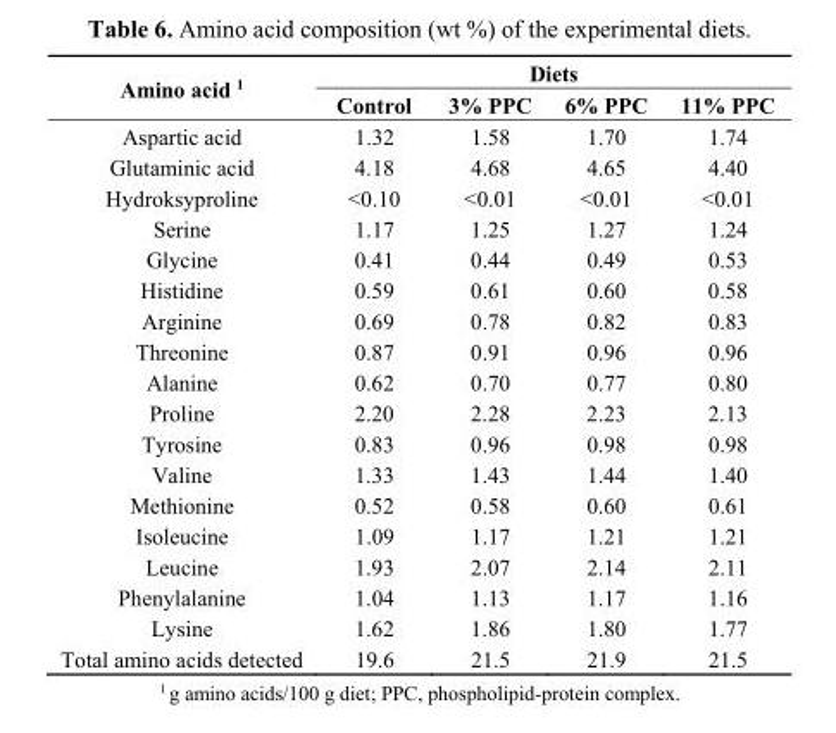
<table><thead><tr><td rowspan="2">Amino acid <sup>1</sup></td><td colspan="4">Diets</td></tr><tr><td>Control</td><td>3% PPC</td><td>6% PPC</td><td>11% PPC</td></tr></thead><tbody><tr><td>Aspartic acid</td><td>1.32</td><td>1.58</td><td>1.70</td><td>1.74</td></tr><tr><td>Glutaminic acid</td><td>4.18</td><td>4.68</td><td>4.65</td><td>4.40</td></tr><tr><td>Hydroksyproline</td><td>&lt;0.10</td><td>&lt;0.01</td><td>&lt;0.01</td><td>&lt;0.01</td></tr><tr><td>Serine</td><td>1.17</td><td>1.25</td><td>1.27</td><td>1.24</td></tr><tr><td>Glycine</td><td>0.41</td><td>0.44</td><td>0.49</td><td>0.53</td></tr><tr><td>Histidine</td><td>0.59</td><td>0.61</td><td>0.60</td><td>0.58</td></tr><tr><td>Arginine</td><td>0.69</td><td>0.78</td><td>0.82</td><td>0.83</td></tr><tr><td>Threonine</td><td>0.87</td><td>0.91</td><td>0.96</td><td>0.96</td></tr><tr><td>Alanine</td><td>0.62</td><td>0.70</td><td>0.77</td><td>0.80</td></tr><tr><td>Proline</td><td>2.20</td><td>2.28</td><td>2.23</td><td>2.13</td></tr><tr><td>Tyrosine</td><td>0.83</td><td>0.96</td><td>0.98</td><td>0.98</td></tr><tr><td>Valine</td><td>1.33</td><td>1.43</td><td>1.44</td><td>1.40</td></tr><tr><td>Methionine</td><td>0.52</td><td>0.58</td><td>0.60</td><td>0.61</td></tr><tr><td>Isoleucine</td><td>1.09</td><td>1.17</td><td>1.21</td><td>1.21</td></tr><tr><td>Leucine</td><td>1.93</td><td>2.07</td><td>2.14</td><td>2.11</td></tr><tr><td>Phenylalanine</td><td>1.04</td><td>1.13</td><td>1.17</td><td>1.16</td></tr><tr><td>Lysine</td><td>1.62</td><td>1.86</td><td>1.80</td><td>1.77</td></tr><tr><td>Total amino acids detected</td><td>19.6</td><td>21.5</td><td>21.9</td><td>21.5</td></tr></tbody></table>